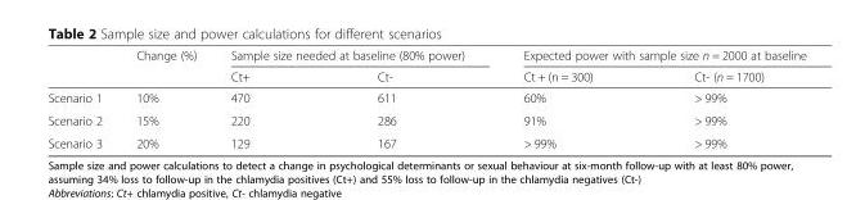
<table><thead><tr><td rowspan="2"></td><td rowspan="2">Change (%)</td><td colspan="2">Sample size needed at baseline (80% power)</td><td colspan="2">Expected power with sample size n = 2000 at baseline</td></tr><tr><td>Ct+</td><td>Ct-</td><td>Ct + (n = 300)</td><td>Ct- (n = 1700)</td></tr></thead><tbody><tr><td>Scenario 1</td><td>10%</td><td>470</td><td>611</td><td>60%</td><td>&gt; 99%</td></tr><tr><td>Scenario 2</td><td>15%</td><td>220</td><td>286</td><td>91%</td><td>&gt; 99%</td></tr><tr><td>Scenario 3</td><td>20%</td><td>129</td><td>167</td><td>&gt; 99%</td><td>&gt; 99%</td></tr></tbody></table>